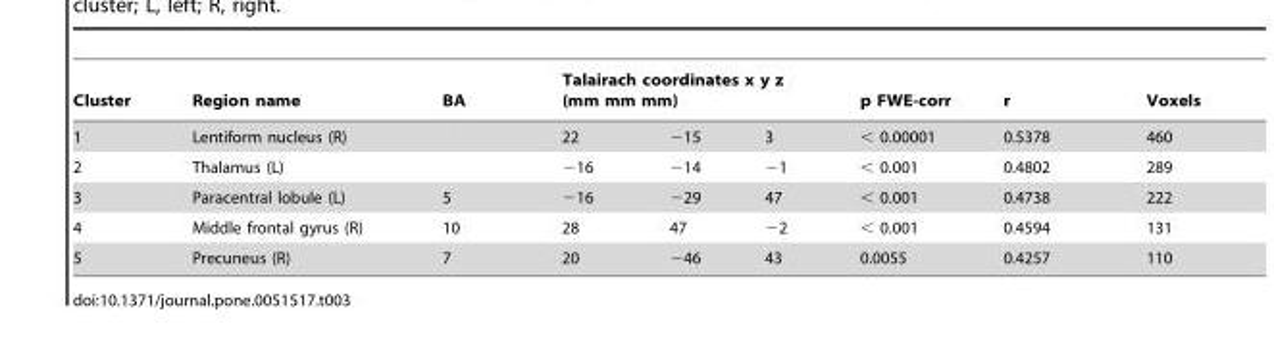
<table><thead><tr><td rowspan="2">Cluster 1</td><td rowspan="2">Region name Lentiform nucleus (R)</td><td rowspan="2">BA</td><td colspan="3">Talairach coordinates x y z (mm mm mm)</td><td rowspan="2">p FWE-corr &lt; 0.00001</td><td rowspan="2">r 0.5378</td><td rowspan="2">Voxels 460</td></tr><tr><td>22</td><td>−15</td><td>3</td></tr></thead><tbody><tr><td>2</td><td>Thalamus (L)</td><td></td><td>−16</td><td>−14</td><td>−1</td><td>&lt; 0.001</td><td>0.4802</td><td>289</td></tr><tr><td>3</td><td>Paracentral lobule (L)</td><td>5</td><td>−16</td><td>−29</td><td>47</td><td>&lt; 0.001</td><td>0.4738</td><td>222</td></tr><tr><td>4</td><td>Middle frontal gyrus (R)</td><td>10</td><td>28</td><td>47</td><td>−2</td><td>&lt; 0.001</td><td>0.4594</td><td>131</td></tr><tr><td>5</td><td>Precuneus (R)</td><td>7</td><td>20</td><td>−46</td><td>43</td><td>0.0055</td><td>0.4257</td><td>110</td></tr></tbody></table>